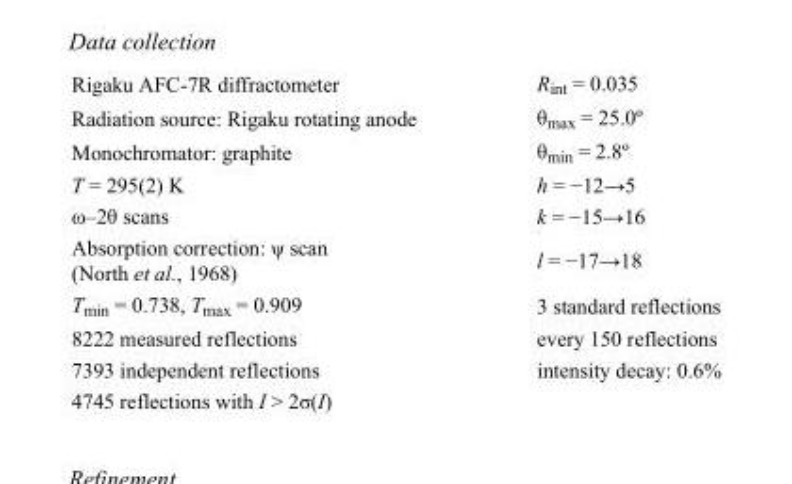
<table><tbody><tr><td>Rigaku AFC-7R diffractometer</td><td>R<sub>int</sub> = 0.035</td></tr><tr><td>Radiation source: Rigaku rotating anode</td><td>θ<sub>max</sub> = 25.0º</td></tr><tr><td>Monochromator: graphite</td><td>θ<sub>min</sub> = 2.8º</td></tr><tr><td>T = 295(2) K</td><td>h = −12→5</td></tr><tr><td>ω–2θ scans</td><td>k = −15→16</td></tr><tr><td>Absorption correction: ψ scan (North et al., 1968)</td><td>l = −17→18</td></tr><tr><td>T<sub>min</sub> = 0.738, T<sub>max</sub> = 0.909</td><td>3 standard reflections</td></tr><tr><td>8222 measured reflections</td><td>every 150 reflections</td></tr><tr><td>7393 independent reflections</td><td>intensity decay: 0.6%</td></tr><tr><td>4745 reflections with I &gt; 2σ(I)</td><td></td></tr></tbody></table>